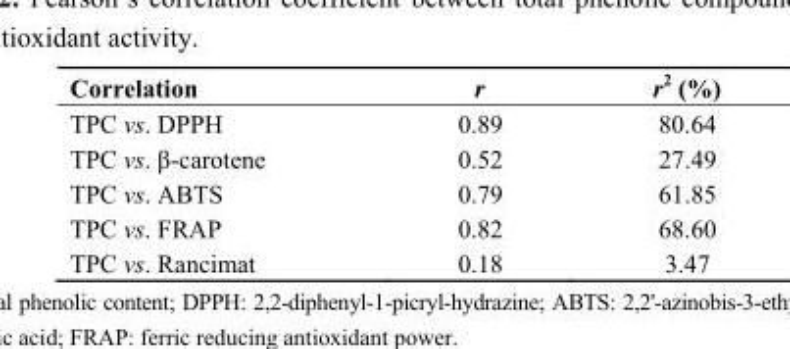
<table><thead><tr><td>Correlation</td><td>r</td><td>r<sup>2</sup> (%)</td></tr></thead><tbody><tr><td>TPC vs. DPPH</td><td>0.89</td><td>80.64</td></tr><tr><td>TPC vs. β-carotene</td><td>0.52</td><td>27.49</td></tr><tr><td>TPC vs. ABTS</td><td>0.79</td><td>61.85</td></tr><tr><td>TPC vs. FRAP</td><td>0.82</td><td>68.60</td></tr><tr><td>TPC vs. Rancimat</td><td>0.18</td><td>3.47</td></tr></tbody></table>